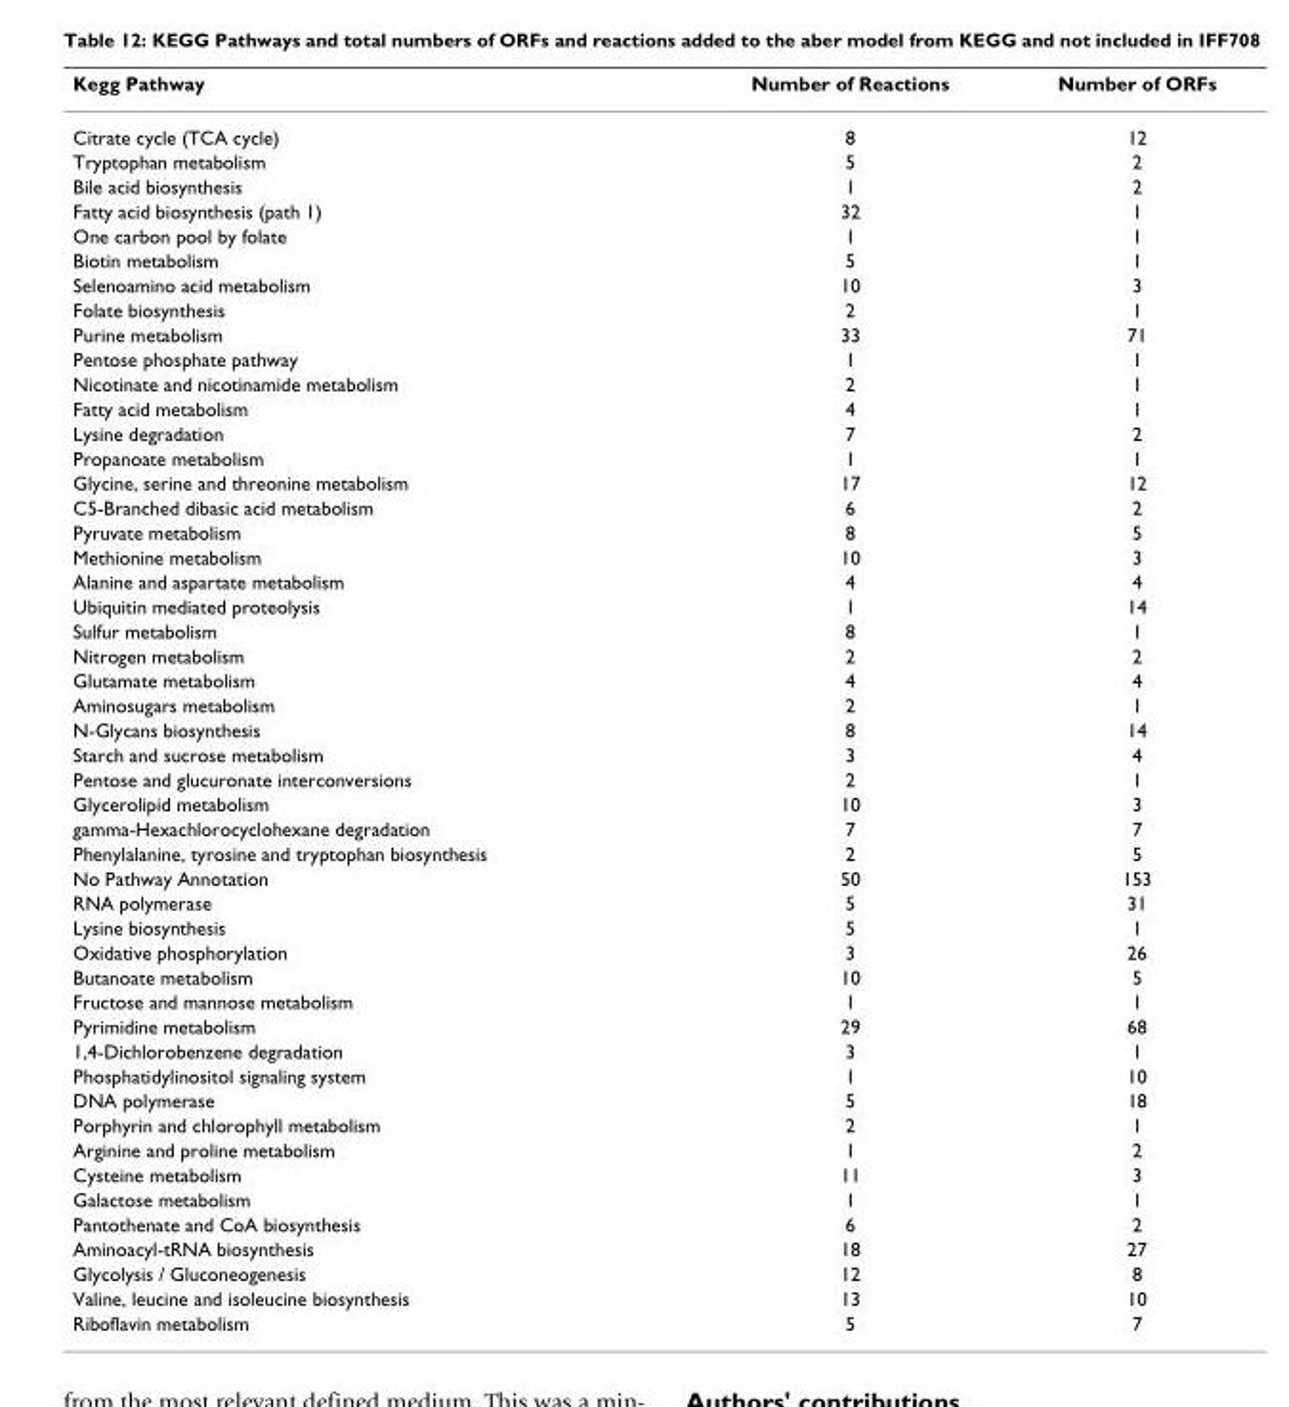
<table><thead><tr><td>Kegg Pathway</td><td>Number of Reactions</td><td>Number of ORFs</td></tr></thead><tbody><tr><td>Citrate cycle (TCA cycle)</td><td>8</td><td>12</td></tr><tr><td>Tryptophan metabolism</td><td>5</td><td>2</td></tr><tr><td>Bile acid biosynthesis</td><td>1</td><td>2</td></tr><tr><td>Fatty acid biosynthesis (path 1)</td><td>32</td><td>1</td></tr><tr><td>One carbon pool by folate</td><td>1</td><td>1</td></tr><tr><td>Biotin metabolism</td><td>5</td><td>1</td></tr><tr><td>Selenoamino acid metabolism</td><td>10</td><td>3</td></tr><tr><td>Folate biosynthesis</td><td>2</td><td>1</td></tr><tr><td>Purine metabolism</td><td>33</td><td>71</td></tr><tr><td>Pentose phosphate pathway</td><td>1</td><td>1</td></tr><tr><td>Nicotinate and nicotinamide metabolism</td><td>2</td><td>1</td></tr><tr><td>Fatty acid metabolism</td><td>4</td><td>1</td></tr><tr><td>Lysine degradation</td><td>7</td><td>2</td></tr><tr><td>Propanoate metabolism</td><td>1</td><td>1</td></tr><tr><td>Glycine, serine and threonine metabolism</td><td>17</td><td>12</td></tr><tr><td>C5-Branched dibasic acid metabolism</td><td>6</td><td>2</td></tr><tr><td>Pyruvate metabolism</td><td>8</td><td>5</td></tr><tr><td>Methionine metabolism</td><td>10</td><td>3</td></tr><tr><td>Alanine and aspartate metabolism</td><td>4</td><td>4</td></tr><tr><td>Ubiquitin mediated proteolysis</td><td>1</td><td>14</td></tr><tr><td>Sulfur metabolism</td><td>8</td><td>1</td></tr><tr><td>Nitrogen metabolism</td><td>2</td><td>2</td></tr><tr><td>Glutamate metabolism</td><td>4</td><td>4</td></tr><tr><td>Aminosugars metabolism</td><td>2</td><td>1</td></tr><tr><td>N-Glycans biosynthesis</td><td>8</td><td>14</td></tr><tr><td>Starch and sucrose metabolism</td><td>3</td><td>4</td></tr><tr><td>Pentose and glucuronate interconversions</td><td>2</td><td>1</td></tr><tr><td>Glycerolipid metabolism</td><td>10</td><td>3</td></tr><tr><td>gamma-Hexachlorocyclohexane degradation</td><td>7</td><td>7</td></tr><tr><td>Phenylalanine, tyrosine and tryptophan biosynthesis</td><td>2</td><td>5</td></tr><tr><td>No Pathway Annotation</td><td>50</td><td>153</td></tr><tr><td>RNA polymerase</td><td>5</td><td>31</td></tr><tr><td>Lysine biosynthesis</td><td>5</td><td>1</td></tr><tr><td>Oxidative phosphorylation</td><td>3</td><td>26</td></tr><tr><td>Butanoate metabolism</td><td>10</td><td>5</td></tr><tr><td>Fructose and mannose metabolism</td><td>1</td><td>1</td></tr><tr><td>Pyrimidine metabolism</td><td>29</td><td>68</td></tr><tr><td>1,4-Dichlorobenzene degradation</td><td>3</td><td>1</td></tr><tr><td>Phosphatidylinositol signaling system</td><td>1</td><td>10</td></tr><tr><td>DNA polymerase</td><td>5</td><td>18</td></tr><tr><td>Porphyrin and chlorophyll metabolism</td><td>2</td><td>1</td></tr><tr><td>Arginine and proline metabolism</td><td>1</td><td>2</td></tr><tr><td>Cysteine metabolism</td><td>11</td><td>3</td></tr><tr><td>Galactose metabolism</td><td>1</td><td>1</td></tr><tr><td>Pantothenate and CoA biosynthesis</td><td>6</td><td>2</td></tr><tr><td>Aminoacyl-tRNA biosynthesis</td><td>18</td><td>27</td></tr><tr><td>Glycolysis / Gluconeogenesis</td><td>12</td><td>8</td></tr><tr><td>Valine, leucine and isoleucine biosynthesis</td><td>13</td><td>10</td></tr><tr><td>Riboflavin metabolism</td><td>5</td><td>7</td></tr></tbody></table>